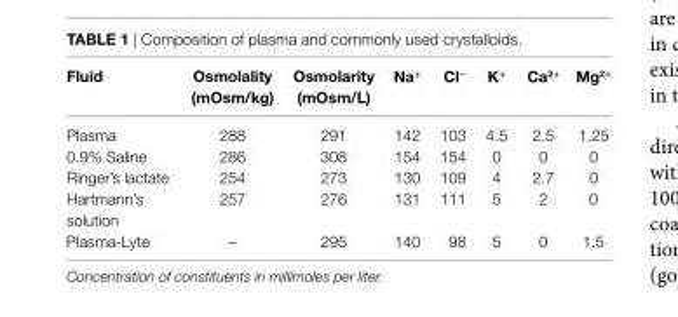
<table><thead><tr><td>Fluid</td><td>Osmolality (mOsm/kg)</td><td>Osmolarity (mOsm/L)</td><td>na<sup>+</sup></td><td>Cl<sup>−</sup></td><td>K<sup>+</sup></td><td>Ca<sup>2+</sup></td><td>Mg<sup>2+</sup></td></tr></thead><tbody><tr><td>Plasma</td><td>288</td><td>291</td><td>142</td><td>103</td><td>4.5</td><td>2.5</td><td>1.25</td></tr><tr><td>0.9% Saline</td><td>286</td><td>308</td><td>154</td><td>154</td><td>0</td><td>0</td><td>0</td></tr><tr><td>Ringer’s lactate</td><td>254</td><td>273</td><td>130</td><td>109</td><td>4</td><td>2.7</td><td>0</td></tr><tr><td>Hartmann’s solution</td><td>257</td><td>276</td><td>131</td><td>111</td><td>5</td><td>2</td><td>0</td></tr><tr><td>Plasma-Lyte</td><td>–</td><td>295</td><td>140</td><td>98</td><td>5</td><td>0</td><td>1.5</td></tr></tbody></table>